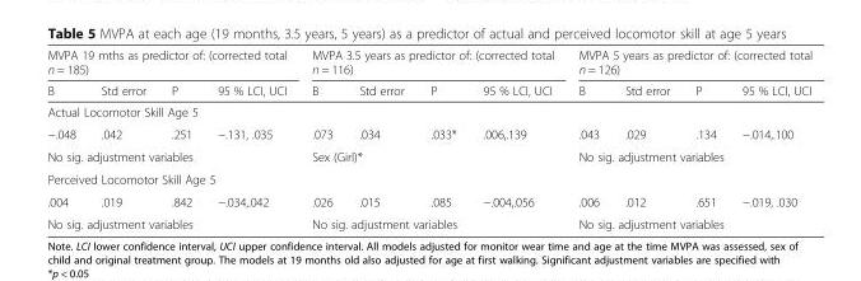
<table><thead><tr><td colspan="4">MVPA 19 mths as predictor of: (corrected total n = 185)</td><td colspan="4">MVPA 3.5 years as predictor of: (corrected total n = 116)</td><td colspan="4">MVPA 5 years as predictor of: (corrected total n = 126)</td></tr><tr><td>B</td><td>Std error</td><td>P</td><td>95 % LCI, UCI</td><td>B</td><td>Std error</td><td>P</td><td>95 % LCI, UCI</td><td>B</td><td>Std error</td><td>P</td><td>95 % LCI, UCI</td></tr></thead><tbody><tr><td colspan="12">Actual Locomotor Skill Age 5</td></tr><tr><td>−.048</td><td>.042</td><td>.251</td><td>−.131, .035</td><td>.073</td><td>.034</td><td>.033*</td><td>.006,.139</td><td>.043</td><td>.029</td><td>.134</td><td>−.014,.100</td></tr><tr><td colspan="4">No sig. adjustment variables</td><td colspan="4">Sex (Girl)*</td><td colspan="4">No sig. adjustment variables</td></tr><tr><td colspan="12">Perceived Locomotor Skill Age 5</td></tr><tr><td>.004</td><td>.019</td><td>.842</td><td>−.034,.042</td><td>.026</td><td>.015</td><td>.085</td><td>−.004,.056</td><td>.006</td><td>.012</td><td>.651</td><td>−.019, .030</td></tr><tr><td colspan="4">No sig. adjustment variables</td><td colspan="4">No sig. adjustment variables</td><td colspan="4">No sig. adjustment variables</td></tr></tbody></table>